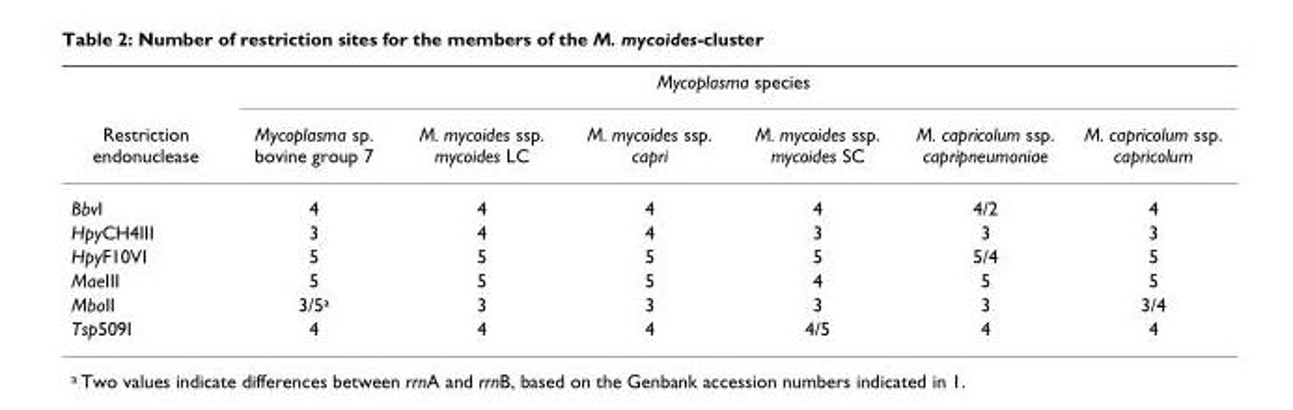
<table><thead><tr><td rowspan="2">Restriction endonuclease</td><td colspan="6">Mycoplasma species</td></tr><tr><td>Mycoplasma sp. bovine group 7</td><td>M. mycoides ssp. mycoides LC</td><td>M. mycoides ssp. capri</td><td>M. mycoides ssp. mycoides SC</td><td>M. capricolum ssp. capripneumoniae</td><td>M. capricolum ssp. capricolum</td></tr></thead><tbody><tr><td>BbvI</td><td>4</td><td>4</td><td>4</td><td>4</td><td>4/2</td><td>4</td></tr><tr><td>HpyCH4III</td><td>3</td><td>4</td><td>4</td><td>3</td><td>3</td><td>3</td></tr><tr><td>HpyF10VI</td><td>5</td><td>5</td><td>5</td><td>5</td><td>5/4</td><td>5</td></tr><tr><td>MaeIII</td><td>5</td><td>5</td><td>5</td><td>4</td><td>5</td><td>5</td></tr><tr><td>MboII</td><td>3/5<sup>a</sup></td><td>3</td><td>3</td><td>3</td><td>3</td><td>3/4</td></tr><tr><td>Tsp509I</td><td>4</td><td>4</td><td>4</td><td>4/5</td><td>4</td><td>4</td></tr></tbody></table>